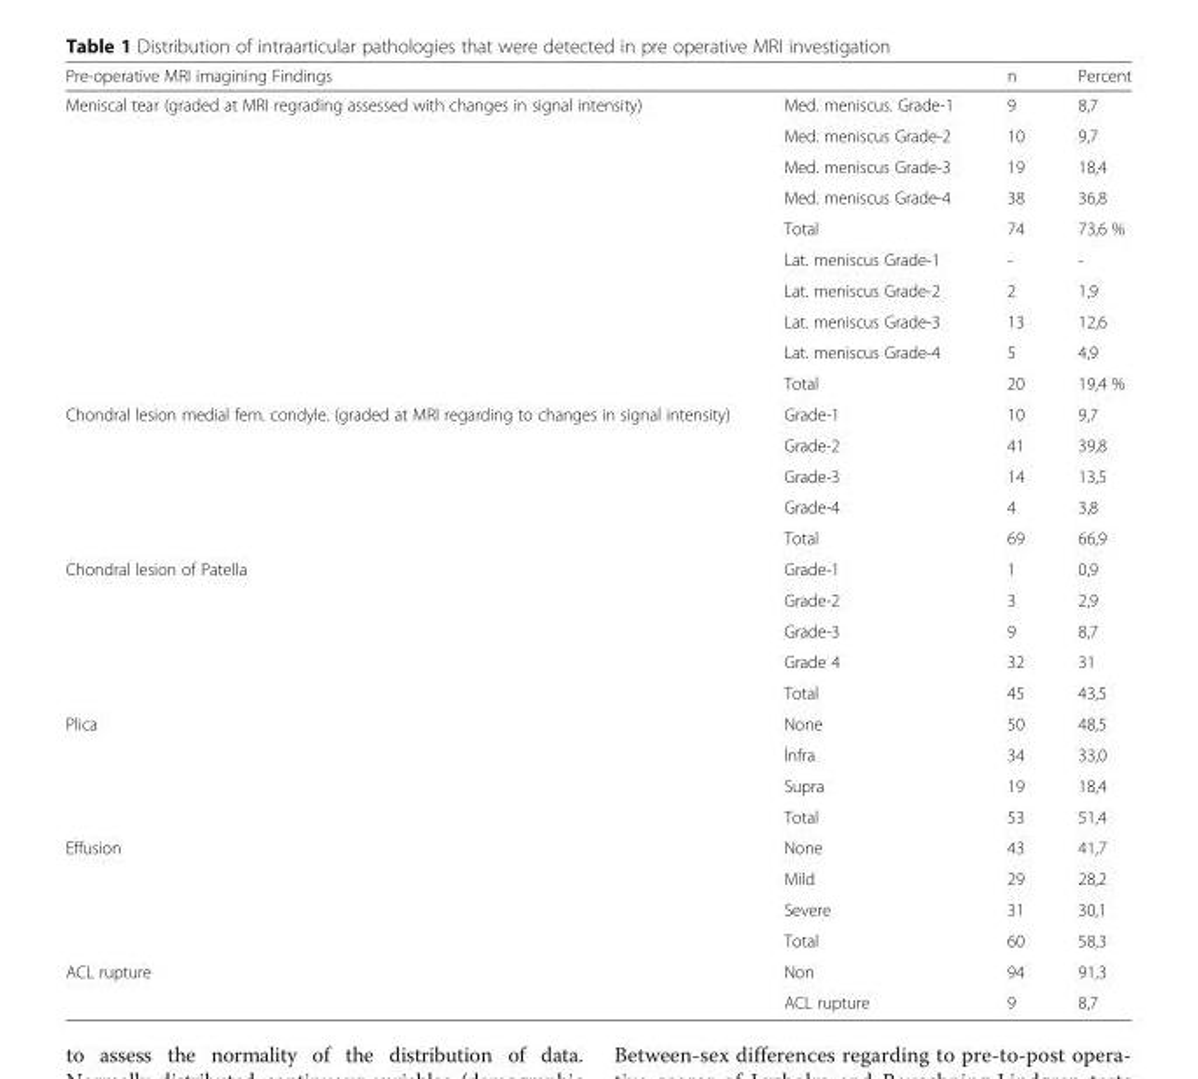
<table><thead><tr><td>Pre-operative MRI imagining Findings</td><td></td><td>n</td><td>Percent</td></tr></thead><tbody><tr><td rowspan="10">Meniscal tear (graded at MRI regrading assessed with changes in signal intensity)</td><td>Med. meniscus. Grade-1</td><td>9</td><td>8,7</td></tr><tr><td>Med. meniscus Grade-2</td><td>10</td><td>9,7</td></tr><tr><td>Med. meniscus Grade-3</td><td>19</td><td>18,4</td></tr><tr><td>Med. meniscus Grade-4</td><td>38</td><td>36,8</td></tr><tr><td>Total</td><td>74</td><td>73,6 %</td></tr><tr><td>Lat. meniscus Grade-1</td><td>-</td><td>-</td></tr><tr><td>Lat. meniscus Grade-2</td><td>2</td><td>1,9</td></tr><tr><td>Lat. meniscus Grade-3</td><td>13</td><td>12,6</td></tr><tr><td>Lat. meniscus Grade-4</td><td>5</td><td>4,9</td></tr><tr><td>Total</td><td>20</td><td>19,4 %</td></tr><tr><td rowspan="5">Chondral lesion medial fem. condyle. (graded at MRI regarding to changes in signal intensity)</td><td>Grade-1</td><td>10</td><td>9,7</td></tr><tr><td>Grade-2</td><td>41</td><td>39,8</td></tr><tr><td>Grade-3</td><td>14</td><td>13,5</td></tr><tr><td>Grade-4</td><td>4</td><td>3,8</td></tr><tr><td>Total</td><td>69</td><td>66,9</td></tr><tr><td rowspan="5">Chondral lesion of Patella</td><td>Grade-1</td><td>1</td><td>0,9</td></tr><tr><td>Grade-2</td><td>3</td><td>2,9</td></tr><tr><td>Grade-3</td><td>9</td><td>8,7</td></tr><tr><td>Grade 4</td><td>32</td><td>31</td></tr><tr><td>Total</td><td>45</td><td>43,5</td></tr><tr><td rowspan="4">Plica</td><td>None</td><td>50</td><td>48,5</td></tr><tr><td>İnfra</td><td>34</td><td>33,0</td></tr><tr><td>Supra</td><td>19</td><td>18,4</td></tr><tr><td>Total</td><td>53</td><td>51,4</td></tr><tr><td rowspan="4">Effusion</td><td>None</td><td>43</td><td>41,7</td></tr><tr><td>Mild</td><td>29</td><td>28,2</td></tr><tr><td>Severe</td><td>31</td><td>30,1</td></tr><tr><td>Total</td><td>60</td><td>58,3</td></tr><tr><td rowspan="2">ACL rupture</td><td>Non</td><td>94</td><td>91,3</td></tr><tr><td>ACL rupture</td><td>9</td><td>8,7</td></tr></tbody></table>